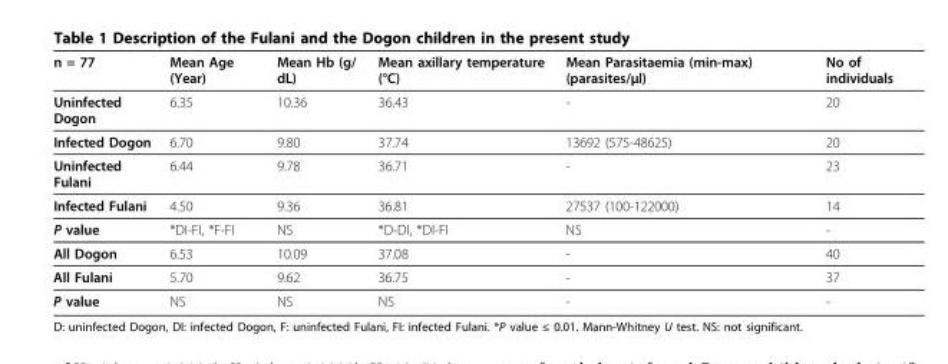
<table><thead><tr><td>n = 77</td><td>Mean Age (Year)</td><td>Mean Hb (g/ dL)</td><td>Mean axillary temperature (°C)</td><td>Mean Parasitaemia (min-max) (parasites/μl)</td><td>No of individuals</td></tr></thead><tbody><tr><td>Uninfected Dogon</td><td>6.35</td><td>10.36</td><td>36.43</td><td>-</td><td>20</td></tr><tr><td>Infected Dogon</td><td>6.70</td><td>9.80</td><td>37.74</td><td>13692 (575-48625)</td><td>20</td></tr><tr><td>Uninfected Fulani</td><td>6.44</td><td>9.78</td><td>36.71</td><td>-</td><td>23</td></tr><tr><td>Infected Fulani</td><td>4.50</td><td>9.36</td><td>36.81</td><td>27537 (100-122000)</td><td>14</td></tr><tr><td>P value</td><td>*DI-FI, *F-FI</td><td>NS</td><td>*D-DI, *DI-FI</td><td>NS</td><td>-</td></tr><tr><td>All Dogon</td><td>6.53</td><td>10.09</td><td>37.08</td><td>-</td><td>40</td></tr><tr><td>All Fulani</td><td>5.70</td><td>9.62</td><td>36.75</td><td>-</td><td>37</td></tr><tr><td>P value</td><td>NS</td><td>NS</td><td>NS</td><td>-</td><td>-</td></tr></tbody></table>